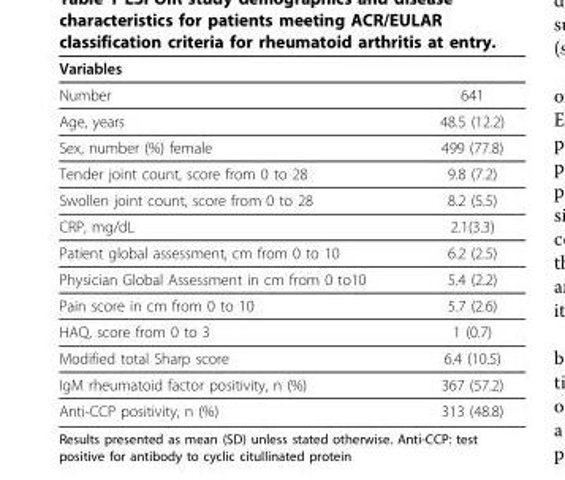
<table><thead><tr><td>Variables</td><td></td></tr></thead><tbody><tr><td>Number</td><td>641</td></tr><tr><td>Age, years</td><td>48.5 (12.2)</td></tr><tr><td>Sex, number (%) female</td><td>499 (77.8)</td></tr><tr><td>Tender joint count, score from 0 to 28</td><td>9.8 (7.2)</td></tr><tr><td>Swollen joint count, score from 0 to 28</td><td>8.2 (5.5)</td></tr><tr><td>CRP, mg/dL</td><td>2.1(3.3)</td></tr><tr><td>Patient global assessment, cm from 0 to 10</td><td>6.2 (2.5)</td></tr><tr><td>Physician Global Assessment in cm from 0 to10</td><td>5.4 (2.2)</td></tr><tr><td>Pain score in cm from 0 to 10</td><td>5.7 (2.6)</td></tr><tr><td>HAQ, score from 0 to 3</td><td>1 (0.7)</td></tr><tr><td>Modified total Sharp score</td><td>6.4 (10.5)</td></tr><tr><td>IgM rheumatoid factor positivity, n (%)</td><td>367 (57.2)</td></tr><tr><td>Anti-CCP positivity, n (%)</td><td>313 (48.8)</td></tr></tbody></table>